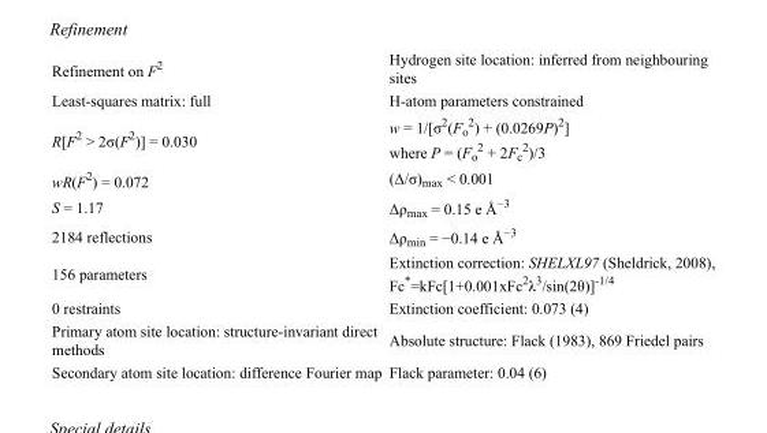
<table><tbody><tr><td>Refinement on F<sup>2</sup></td><td>Hydrogen site location: inferred from neighbouring sites</td></tr><tr><td>Least-squares matrix: full</td><td>H-atom parameters constrained</td></tr><tr><td>R[F<sup>2</sup> &gt; 2σ(F<sup>2</sup>)] = 0.030</td><td>w = 1/[σ<sup>2</sup>(F<sub>o</sub> <sup>2</sup>) + (0.0269P)<sup>2</sup>] where P = (F<sub>o</sub> <sup>2</sup> + 2F<sub>c</sub> <sup>2</sup>)/3</td></tr><tr><td>wR(F<sup>2</sup>) = 0.072</td><td>(Δ/σ)<sub>max</sub> &lt; 0.001</td></tr><tr><td>S = 1.17</td><td>Δρ<sub>max</sub> = 0.15 e Å<sup>−3</sup></td></tr><tr><td>2184 reflections</td><td>Δρ<sub>min</sub> = −0.14 e Å<sup>−3</sup></td></tr><tr><td>156 parameters</td><td>Extinction correction: SHELXL97 (Sheldrick, 2008), Fc*=kFc[1+0.001xFc<sup>2</sup>λ<sup>3</sup>/sin(2θ)]<sup>-1/4</sup></td></tr><tr><td>0 restraints</td><td>Extinction coefficient: 0.073 (4)</td></tr><tr><td>Primary atom site location: structure-invariant direct methods</td><td>Absolute structure: Flack (1983), 869 Friedel pairs</td></tr><tr><td>Secondary atom site location: difference Fourier map</td><td>Flack parameter: 0.04 (6)</td></tr></tbody></table>